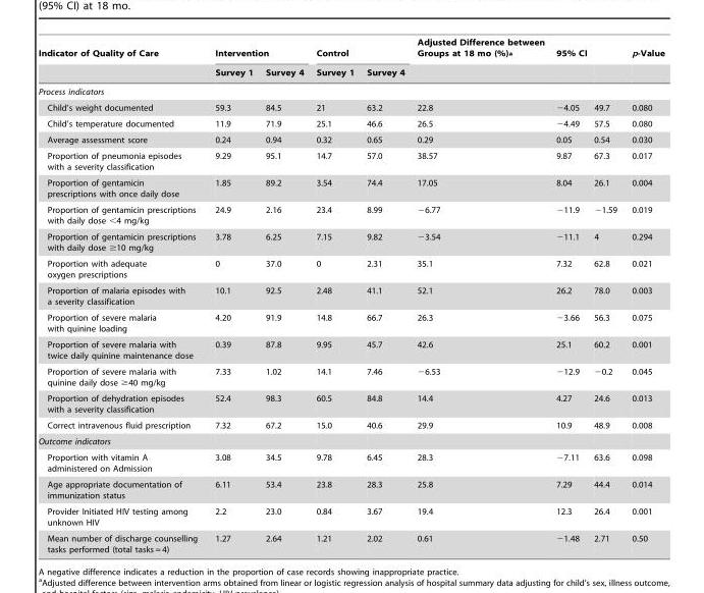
<table><thead><tr><td rowspan="2">Indicator of Quality of Care</td><td colspan="2">Intervention</td><td colspan="2">Control</td><td rowspan="2">Adjusted Difference between Groups at 18 mo (%)<sup>a</sup></td><td colspan="2">95% CI</td><td rowspan="2">p-Value</td></tr><tr><td>Survey 1</td><td>Survey 4</td><td>Survey 1</td><td>Survey 4</td><td></td><td></td></tr></thead><tbody><tr><td colspan="9">Process indicators</td></tr><tr><td>Child’s weight documented</td><td>59.3</td><td>84.5</td><td>21</td><td>63.2</td><td>22.8</td><td>−4.05</td><td>49.7</td><td>0.080</td></tr><tr><td>Child’s temperature documented</td><td>11.9</td><td>71.9</td><td>25.1</td><td>46.6</td><td>26.5</td><td>−4.49</td><td>57.5</td><td>0.080</td></tr><tr><td>Average assessment score</td><td>0.24</td><td>0.94</td><td>0.32</td><td>0.65</td><td>0.29</td><td>0.05</td><td>0.54</td><td>0.030</td></tr><tr><td>Proportion of pneumonia episodes with a severity classification</td><td>9.29</td><td>95.1</td><td>14.7</td><td>57.0</td><td>38.57</td><td>9.87</td><td>67.3</td><td>0.017</td></tr><tr><td>Proportion of gentamicin prescriptions with once daily dose</td><td>1.85</td><td>89.2</td><td>3.54</td><td>74.4</td><td>17.05</td><td>8.04</td><td>26.1</td><td>0.004</td></tr><tr><td>Proportion of gentamicin prescriptions with daily dose &lt;4 mg/kg</td><td>24.9</td><td>2.16</td><td>23.4</td><td>8.99</td><td>−6.77</td><td>−11.9</td><td>−1.59</td><td>0.019</td></tr><tr><td>Proportion of gentamicin prescriptions with daily dose ≥10 mg/kg</td><td>3.78</td><td>6.25</td><td>7.15</td><td>9.82</td><td>−3.54</td><td>−11.1</td><td>4</td><td>0.294</td></tr><tr><td>Proportion with adequate oxygen prescriptions</td><td>0</td><td>37.0</td><td>0</td><td>2.31</td><td>35.1</td><td>7.32</td><td>62.8</td><td>0.021</td></tr><tr><td>Proportion of malaria episodes with a severity classification</td><td>10.1</td><td>92.5</td><td>2.48</td><td>41.1</td><td>52.1</td><td>26.2</td><td>78.0</td><td>0.003</td></tr><tr><td>Proportion of severe malaria with quinine loading</td><td>4.20</td><td>91.9</td><td>14.8</td><td>66.7</td><td>26.3</td><td>−3.66</td><td>56.3</td><td>0.075</td></tr><tr><td>Proportion of severe malaria with twice daily quinine maintenance dose</td><td>0.39</td><td>87.8</td><td>9.95</td><td>45.7</td><td>42.6</td><td>25.1</td><td>60.2</td><td>0.001</td></tr><tr><td>Proportion of severe malaria with quinine daily dose ≥40 mg/kg</td><td>7.33</td><td>1.02</td><td>14.1</td><td>7.46</td><td>−6.53</td><td>−12.9</td><td>−0.2</td><td>0.045</td></tr><tr><td>Proportion of dehydration episodes with a severity classification</td><td>52.4</td><td>98.3</td><td>60.5</td><td>84.8</td><td>14.4</td><td>4.27</td><td>24.6</td><td>0.013</td></tr><tr><td>Correct intravenous fluid prescription</td><td>7.32</td><td>67.2</td><td>15.0</td><td>40.6</td><td>29.9</td><td>10.9</td><td>48.9</td><td>0.008</td></tr><tr><td colspan="9">Outcome indicators</td></tr><tr><td>Proportion with vitamin A administered on Admission</td><td>3.08</td><td>34.5</td><td>9.78</td><td>6.45</td><td>28.3</td><td>−7.11</td><td>63.6</td><td>0.098</td></tr><tr><td>Age appropriate documentation of immunization status</td><td>6.11</td><td>53.4</td><td>23.8</td><td>28.3</td><td>25.8</td><td>7.29</td><td>44.4</td><td>0.014</td></tr><tr><td>Provider Initiated HIV testing among unknown HIV</td><td>2.2</td><td>23.0</td><td>0.84</td><td>3.67</td><td>19.4</td><td>12.3</td><td>26.4</td><td>0.001</td></tr><tr><td>Mean number of discharge counselling tasks performed (total tasks = 4)</td><td>1.27</td><td>2.64</td><td>1.21</td><td>2.02</td><td>0.61</td><td>−1.48</td><td>2.71</td><td>0.50</td></tr></tbody></table>